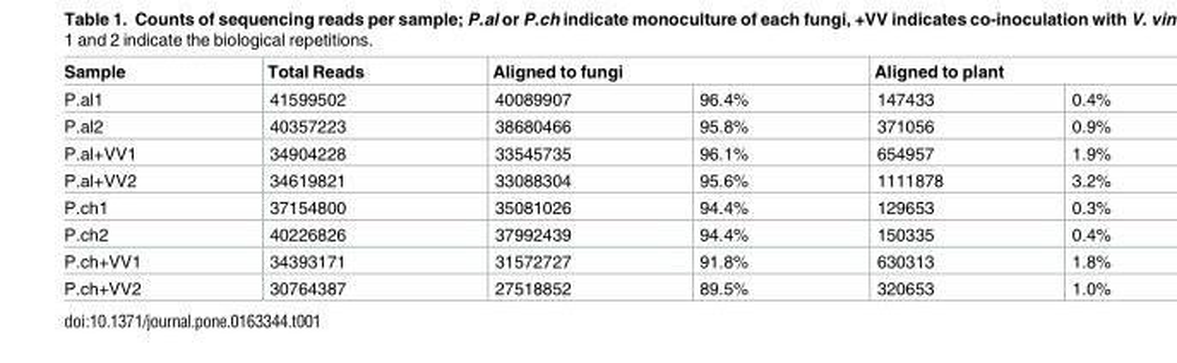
<table><thead><tr><td rowspan="2">Sample P.al1</td><td rowspan="2">Total Reads 41599502</td><td colspan="2">Aligned to fungi</td><td colspan="2">Aligned to plant</td></tr><tr><td>40089907</td><td>96.4%</td><td>147433</td><td>0.4%</td></tr></thead><tbody><tr><td>P.al2</td><td>40357223</td><td>38680466</td><td>95.8%</td><td>371056</td><td>0.9%</td></tr><tr><td>P.al+VV1</td><td>34904228</td><td>33545735</td><td>96.1%</td><td>654957</td><td>1.9%</td></tr><tr><td>P.al+VV2</td><td>34619821</td><td>33088304</td><td>95.6%</td><td>1111878</td><td>3.2%</td></tr><tr><td>P.ch1</td><td>37154800</td><td>35081026</td><td>94.4%</td><td>129653</td><td>0.3%</td></tr><tr><td>P.ch2</td><td>40226826</td><td>37992439</td><td>94.4%</td><td>150335</td><td>0.4%</td></tr><tr><td>P.ch+VV1</td><td>34393171</td><td>31572727</td><td>91.8%</td><td>630313</td><td>1.8%</td></tr><tr><td>P.ch+VV2</td><td>30764387</td><td>27518852</td><td>89.5%</td><td>320653</td><td>1.0%</td></tr></tbody></table>